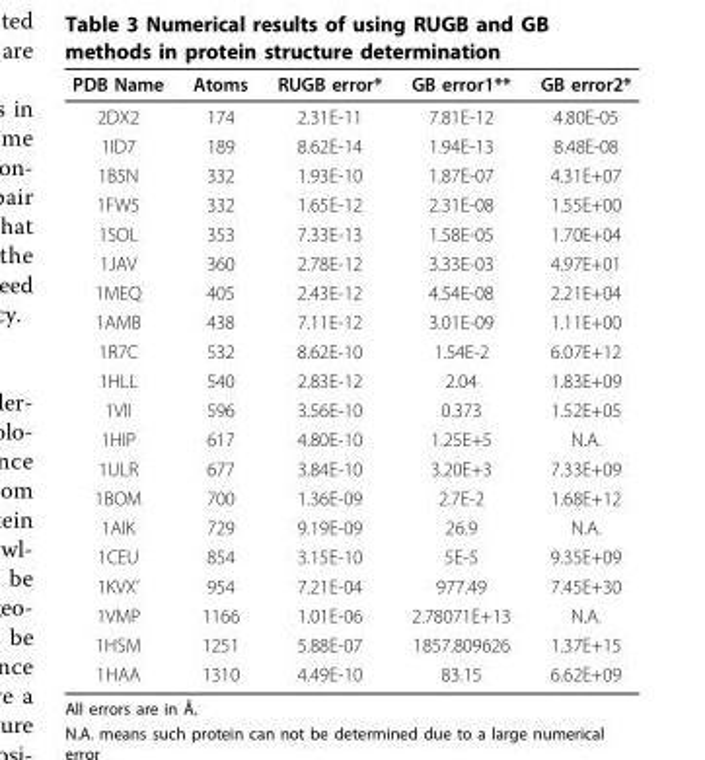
<table><thead><tr><td>PDB Name</td><td>Atoms</td><td>RUGB error*</td><td>GB error1**</td><td>GB error2*</td></tr></thead><tbody><tr><td>2DX2</td><td>174</td><td>2.31E-11</td><td>7.81E-12</td><td>4.80E-05</td></tr><tr><td>1ID7</td><td>189</td><td>8.62E-14</td><td>1.94E-13</td><td>8.48E-08</td></tr><tr><td>1B5N</td><td>332</td><td>1.93E-10</td><td>1.87E-07</td><td>4.31E+07</td></tr><tr><td>1FW5</td><td>332</td><td>1.65E-12</td><td>2.31E-08</td><td>1.55E+00</td></tr><tr><td>1SOL</td><td>353</td><td>7.33E-13</td><td>1.58E-05</td><td>1.70E+04</td></tr><tr><td>1JAV</td><td>360</td><td>2.78E-12</td><td>3.33E-03</td><td>4.97E+01</td></tr><tr><td>1MEQ</td><td>405</td><td>2.43E-12</td><td>4.54E-08</td><td>2.21E+04</td></tr><tr><td>1AMB</td><td>438</td><td>7.11E-12</td><td>3.01E-09</td><td>1.11E+00</td></tr><tr><td>1R7C</td><td>532</td><td>8.62E-10</td><td>1.54E-2</td><td>6.07E+12</td></tr><tr><td>1HLL</td><td>540</td><td>2.83E-12</td><td>2.04</td><td>1.83E+09</td></tr><tr><td>1VII</td><td>596</td><td>3.56E-10</td><td>0.373</td><td>1.52E+05</td></tr><tr><td>1HIP</td><td>617</td><td>4.80E-10</td><td>1.25E+5</td><td>N.A.</td></tr><tr><td>1ULR</td><td>677</td><td>3.84E-10</td><td>3.20E+3</td><td>7.33E+09</td></tr><tr><td>1BOM</td><td>700</td><td>1.36E-09</td><td>2.7E-2</td><td>1.68E+12</td></tr><tr><td>1AIK</td><td>729</td><td>9.19E-09</td><td>26.9</td><td>N.A.</td></tr><tr><td>1CEU</td><td>854</td><td>3.15E-10</td><td>5E-5</td><td>9.35E+09</td></tr><tr><td>1KVX’</td><td>954</td><td>7.21E-04</td><td>977.49</td><td>7.45E+30</td></tr><tr><td>1VMP</td><td>1166</td><td>1.01E-06</td><td>2.78071E+13</td><td>N.A.</td></tr><tr><td>1HSM</td><td>1251</td><td>5.88E-07</td><td>1857.809626</td><td>1.37E+15</td></tr><tr><td>1HAA</td><td>1310</td><td>4.49E-10</td><td>83.15</td><td>6.62E+09</td></tr></tbody></table>